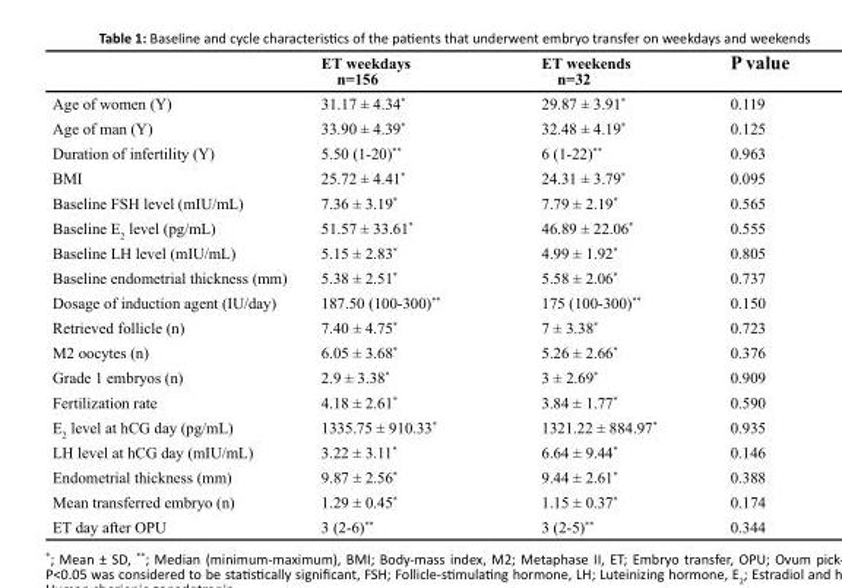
<table><thead><tr><td></td><td>ET weekdays n=156</td><td>ET weekends n=32</td><td>P value</td></tr></thead><tbody><tr><td>Age of women (Y)</td><td>31.17 ± 4.34*</td><td>29.87 ± 3.91*</td><td>0.119</td></tr><tr><td>Age of man (Y)</td><td>33.90 ± 4.39*</td><td>32.48 ± 4.19*</td><td>0.125</td></tr><tr><td>Duration of infertility (Y)</td><td>5.50 (1-20)**</td><td>6 (1-22)**</td><td>0.963</td></tr><tr><td>BMI</td><td>25.72 ± 4.41*</td><td>24.31 ± 3.79*</td><td>0.095</td></tr><tr><td>Baseline FSH level (mIU/mL)</td><td>7.36 ± 3.19*</td><td>7.79 ± 2.19*</td><td>0.565</td></tr><tr><td>Baseline E<sub>2</sub> level (pg/mL)</td><td>51.57 ± 33.61*</td><td>46.89 ± 22.06*</td><td>0.555</td></tr><tr><td>Baseline LH level (mIU/mL)</td><td>5.15 ± 2.83*</td><td>4.99 ± 1.92*</td><td>0.805</td></tr><tr><td>Baseline endometrial thickness (mm)</td><td>5.38 ± 2.51*</td><td>5.58 ± 2.06*</td><td>0.737</td></tr><tr><td>Dosage of induction agent (IU/day)</td><td>187.50 (100-300)**</td><td>175 (100-300)**</td><td>0.150</td></tr><tr><td>Retrieved follicle (n)</td><td>7.40 ± 4.75*</td><td>7 ± 3.38*</td><td>0.723</td></tr><tr><td>M2 oocytes (n)</td><td>6.05 ± 3.68*</td><td>5.26 ± 2.66*</td><td>0.376</td></tr><tr><td>Grade 1 embryos (n)</td><td>2.9 ± 3.38*</td><td>3 ± 2.69*</td><td>0.909</td></tr><tr><td>Fertilization rate</td><td>4.18 ± 2.61*</td><td>3.84 ± 1.77*</td><td>0.590</td></tr><tr><td>E<sub>2</sub> level at hCG day (pg/mL)</td><td>1335.75 ± 910.33*</td><td>1321.22 ± 884.97*</td><td>0.935</td></tr><tr><td>LH level at hCG day (mIU/mL)</td><td>3.22 ± 3.11*</td><td>6.64 ± 9.44*</td><td>0.146</td></tr><tr><td>Endometrial thickness (mm)</td><td>9.87 ± 2.56*</td><td>9.44 ± 2.61*</td><td>0.388</td></tr><tr><td>Mean transferred embryo (n)</td><td>1.29 ± 0.45*</td><td>1.15 ± 0.37*</td><td>0.174</td></tr><tr><td>ET day after OPU</td><td>3 (2-6)**</td><td>3 (2-5)**</td><td>0.344</td></tr></tbody></table>